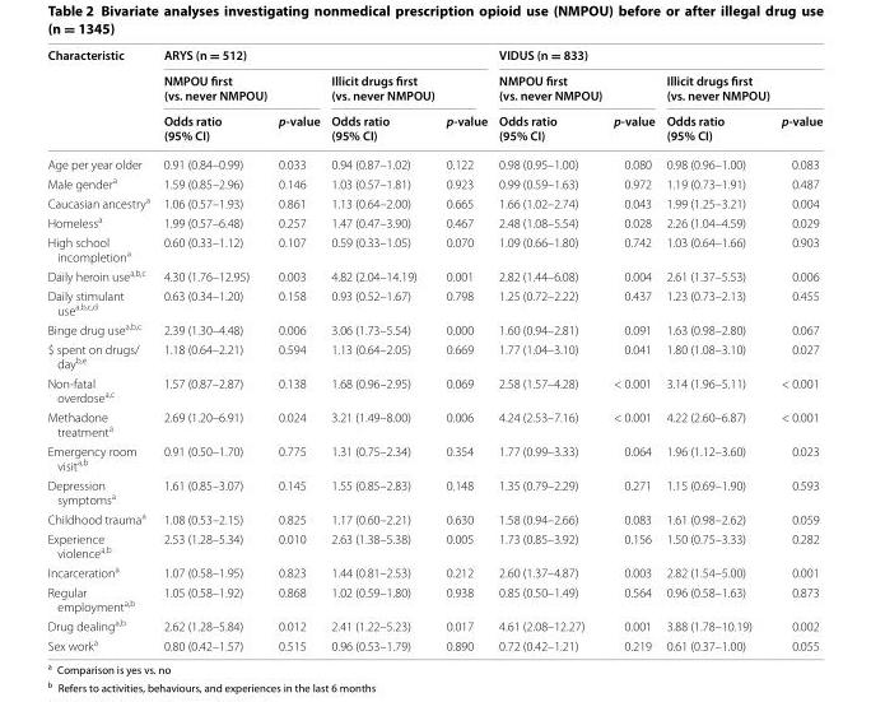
<table><thead><tr><td rowspan="3">Characteristic</td><td colspan="4">ARYS (n = 512)</td><td colspan="4">VIDUS (n = 833)</td></tr><tr><td colspan="2">NMPOU first (vs. never NMPOU)</td><td colspan="2">Illicit drugs first (vs. never NMPOU)</td><td colspan="2">NMPOU first (vs. never NMPOU)</td><td colspan="2">Illicit drugs first (vs. never NMPOU)</td></tr><tr><td>Odds ratio (95% CI)</td><td>p-value</td><td>Odds ratio (95% CI)</td><td>p-value</td><td>Odds ratio (95% CI)</td><td>p-value</td><td>Odds ratio (95% CI)</td><td>p-value</td></tr></thead><tbody><tr><td>Age per year older</td><td>0.91 (0.84–0.99)</td><td>0.033</td><td>0.94 (0.87–1.02)</td><td>0.122</td><td>0.98 (0.95–1.00)</td><td>0.080</td><td>0.98 (0.96–1.00)</td><td>0.083</td></tr><tr><td>Male gender<sup>a</sup></td><td>1.59 (0.85–2.96)</td><td>0.146</td><td>1.03 (0.57–1.81)</td><td>0.923</td><td>0.99 (0.59–1.63)</td><td>0.972</td><td>1.19 (0.73–1.91)</td><td>0.487</td></tr><tr><td>Caucasian ancestry<sup>a</sup></td><td>1.06 (0.57–1.93)</td><td>0.861</td><td>1.13 (0.64–2.00)</td><td>0.665</td><td>1.66 (1.02–2.74)</td><td>0.043</td><td>1.99 (1.25–3.21)</td><td>0.004</td></tr><tr><td>Homeless<sup>a</sup></td><td>1.99 (0.57–6.48)</td><td>0.257</td><td>1.47 (0.47–3.90)</td><td>0.467</td><td>2.48 (1.08–5.54)</td><td>0.028</td><td>2.26 (1.04–4.59)</td><td>0.029</td></tr><tr><td>High school incompletion<sup>a</sup></td><td>0.60 (0.33–1.12)</td><td>0.107</td><td>0.59 (0.33–1.05)</td><td>0.070</td><td>1.09 (0.66–1.80)</td><td>0.742</td><td>1.03 (0.64–1.66)</td><td>0.903</td></tr><tr><td>Daily heroin use<sup>a,b,c</sup></td><td>4.30 (1.76–12.95)</td><td>0.003</td><td>4.82 (2.04–14.19)</td><td>0.001</td><td>2.82 (1.44–6.08)</td><td>0.004</td><td>2.61 (1.37–5.53)</td><td>0.006</td></tr><tr><td>Daily stimulant use<sup>a,b,c,d</sup></td><td>0.63 (0.34–1.20)</td><td>0.158</td><td>0.93 (0.52–1.67)</td><td>0.798</td><td>1.25 (0.72–2.22)</td><td>0.437</td><td>1.23 (0.73–2.13)</td><td>0.455</td></tr><tr><td>Binge drug use<sup>a,b,c</sup></td><td>2.39 (1.30–4.48)</td><td>0.006</td><td>3.06 (1.73–5.54)</td><td>0.000</td><td>1.60 (0.94–2.81)</td><td>0.091</td><td>1.63 (0.98–2.80)</td><td>0.067</td></tr><tr><td>$ spent on drugs/ day<sup>b,e</sup></td><td>1.18 (0.64–2.21)</td><td>0.594</td><td>1.13 (0.64–2.05)</td><td>0.669</td><td>1.77 (1.04–3.10)</td><td>0.041</td><td>1.80 (1.08–3.10)</td><td>0.027</td></tr><tr><td>Non-fatal overdose<sup>a,c</sup></td><td>1.57 (0.87–2.87)</td><td>0.138</td><td>1.68 (0.96–2.95)</td><td>0.069</td><td>2.58 (1.57–4.28)</td><td>&lt; 0.001</td><td>3.14 (1.96–5.11)</td><td>&lt; 0.001</td></tr><tr><td>Methadone treatment<sup>a</sup></td><td>2.69 (1.20–6.91)</td><td>0.024</td><td>3.21 (1.49–8.00)</td><td>0.006</td><td>4.24 (2.53–7.16)</td><td>&lt; 0.001</td><td>4.22 (2.60–6.87)</td><td>&lt; 0.001</td></tr><tr><td>Emergency room visit<sup>a,b</sup></td><td>0.91 (0.50–1.70)</td><td>0.775</td><td>1.31 (0.75–2.34)</td><td>0.354</td><td>1.77 (0.99–3.33)</td><td>0.064</td><td>1.96 (1.12–3.60)</td><td>0.023</td></tr><tr><td>Depression symptoms<sup>a</sup></td><td>1.61 (0.85–3.07)</td><td>0.145</td><td>1.55 (0.85–2.83)</td><td>0.148</td><td>1.35 (0.79–2.29)</td><td>0.271</td><td>1.15 (0.69–1.90)</td><td>0.593</td></tr><tr><td>Childhood trauma<sup>a</sup></td><td>1.08 (0.53–2.15)</td><td>0.825</td><td>1.17 (0.60–2.21)</td><td>0.630</td><td>1.58 (0.94–2.66)</td><td>0.083</td><td>1.61 (0.98–2.62)</td><td>0.059</td></tr><tr><td>Experience violence<sup>a,b</sup></td><td>2.53 (1.28–5.34)</td><td>0.010</td><td>2.63 (1.38–5.38)</td><td>0.005</td><td>1.73 (0.85–3.92)</td><td>0.156</td><td>1.50 (0.75–3.33)</td><td>0.282</td></tr><tr><td>Incarceration<sup>a</sup></td><td>1.07 (0.58–1.95)</td><td>0.823</td><td>1.44 (0.81–2.53)</td><td>0.212</td><td>2.60 (1.37–4.87)</td><td>0.003</td><td>2.82 (1.54–5.00)</td><td>0.001</td></tr><tr><td>Regular employment<sup>a,b</sup></td><td>1.05 (0.58–1.92)</td><td>0.868</td><td>1.02 (0.59–1.80)</td><td>0.938</td><td>0.85 (0.50–1.49)</td><td>0.564</td><td>0.96 (0.58–1.63)</td><td>0.873</td></tr><tr><td>Drug dealing<sup>a,b</sup></td><td>2.62 (1.28–5.84)</td><td>0.012</td><td>2.41 (1.22–5.23)</td><td>0.017</td><td>4.61 (2.08–12.27)</td><td>0.001</td><td>3.88 (1.78–10.19)</td><td>0.002</td></tr><tr><td>Sex work<sup>a</sup></td><td>0.80 (0.42–1.57)</td><td>0.515</td><td>0.96 (0.53–1.79)</td><td>0.890</td><td>0.72 (0.42–1.21)</td><td>0.219</td><td>0.61 (0.37–1.00)</td><td>0.055</td></tr></tbody></table>